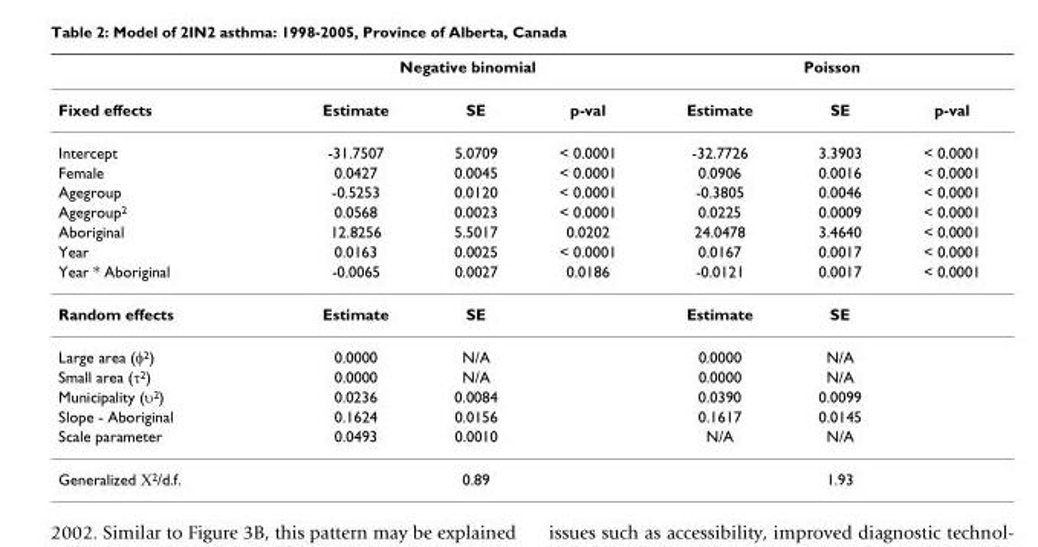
<table><thead><tr><td rowspan="2">Fixed effects</td><td colspan="3">Negative binomial</td><td colspan="3">Poisson</td></tr><tr><td>Estimate</td><td>SE</td><td>p-val</td><td>Estimate</td><td>SE</td><td>p-val</td></tr></thead><tbody><tr><td>Intercept</td><td>-31.7507</td><td>5.0709</td><td>&lt; 0.0001</td><td>-32.7726</td><td>3.3903</td><td>&lt; 0.0001</td></tr><tr><td>Female</td><td>0.0427</td><td>0.0045</td><td>&lt; 0.0001</td><td>0.0906</td><td>0.0016</td><td>&lt; 0.0001</td></tr><tr><td>Agegroup</td><td>-0.5253</td><td>0.0120</td><td>&lt; 0.0001</td><td>-0.3805</td><td>0.0046</td><td>&lt; 0.0001</td></tr><tr><td>Agegroup<sup>2</sup></td><td>0.0568</td><td>0.0023</td><td>&lt; 0.0001</td><td>0.0225</td><td>0.0009</td><td>&lt; 0.0001</td></tr><tr><td>Aboriginal</td><td>12.8256</td><td>5.5017</td><td>0.0202</td><td>24.0478</td><td>3.4640</td><td>&lt; 0.0001</td></tr><tr><td>Year</td><td>0.0163</td><td>0.0025</td><td>&lt; 0.0001</td><td>0.0167</td><td>0.0017</td><td>&lt; 0.0001</td></tr><tr><td>Year * Aboriginal</td><td>-0.0065</td><td>0.0027</td><td>0.0186</td><td>-0.0121</td><td>0.0017</td><td>&lt; 0.0001</td></tr><tr><td>Random effects</td><td>Estimate</td><td>SE</td><td></td><td>Estimate</td><td>SE</td><td></td></tr><tr><td>Large area (φ<sup>2</sup>)</td><td>0.0000</td><td>N/A</td><td></td><td>0.0000</td><td>N/A</td><td></td></tr><tr><td>Small area (τ<sup>2</sup>)</td><td>0.0000</td><td>N/A</td><td></td><td>0.0000</td><td>N/A</td><td></td></tr><tr><td>Municipality (υ<sup>2</sup>)</td><td>0.0236</td><td>0.0084</td><td></td><td>0.0390</td><td>0.0099</td><td></td></tr><tr><td>Slope - Aboriginal</td><td>0.1624</td><td>0.0156</td><td></td><td>0.1617</td><td>0.0145</td><td></td></tr><tr><td>Scale parameter</td><td>0.0493</td><td>0.0010</td><td></td><td>N/A</td><td>N/A</td><td></td></tr><tr><td>Generalized Χ<sup>2</sup>/d.f.</td><td></td><td>0.89</td><td></td><td></td><td>1.93</td><td></td></tr></tbody></table>